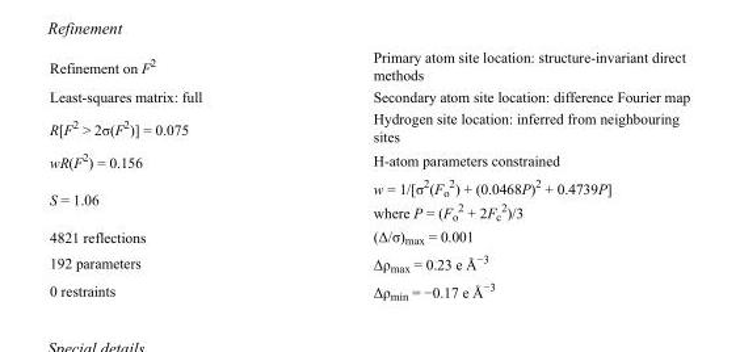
<table><tbody><tr><td>Refinement on F<sup>2</sup></td><td>Primary atom site location: structure-invariant direct methods</td></tr><tr><td>Least-squares matrix: full</td><td>Secondary atom site location: difference Fourier map</td></tr><tr><td>R[F<sup>2</sup> &gt; 2σ(F<sup>2</sup>)] = 0.075</td><td>Hydrogen site location: inferred from neighbouring sites</td></tr><tr><td>wR(F<sup>2</sup>) = 0.156</td><td>H-atom parameters constrained</td></tr><tr><td>S = 1.06</td><td>w = 1/[σ<sup>2</sup>(F<sub>o</sub> <sup>2</sup>) + (0.0468P)<sup>2</sup> + 0.4739P] where P = (F<sub>o</sub> <sup>2</sup> + 2F<sub>c</sub> <sup>2</sup>)/3</td></tr><tr><td>4821 reflections</td><td>(Δ/σ)<sub>max</sub> = 0.001</td></tr><tr><td>192 parameters</td><td>Δρ<sub>max</sub> = 0.23 e Å<sup>−3</sup></td></tr><tr><td>0 restraints</td><td>Δρ<sub>min</sub> = −0.17 e Å<sup>−3</sup></td></tr></tbody></table>